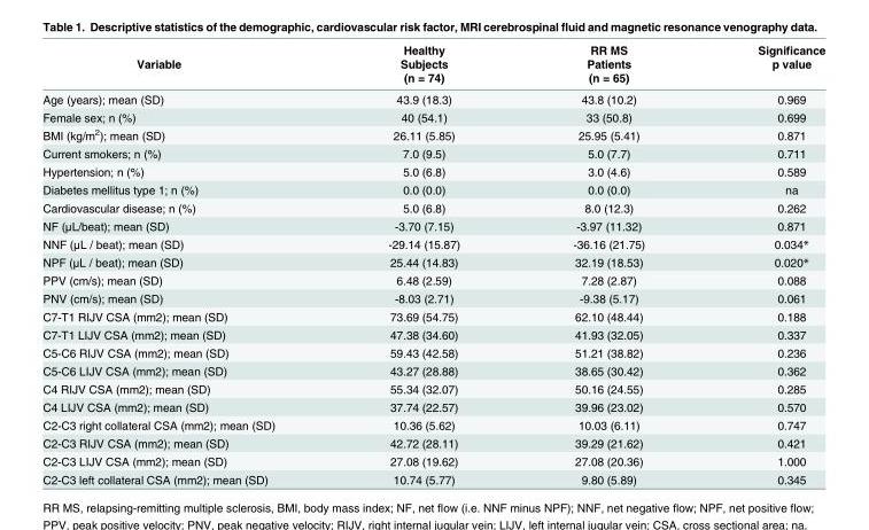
<table><thead><tr><td rowspan="3">Variable</td><td rowspan="3">Healthy Subjects (n = 74)</td><td rowspan="3">RR MS Patients (n = 65)</td><td rowspan="3">Significance p value</td></tr><tr></tr><tr></tr></thead><tbody><tr><td>Age (years); mean (SD)</td><td>43.9 (18.3)</td><td>43.8 (10.2)</td><td>0.969</td></tr><tr><td>Female sex; n (%)</td><td>40 (54.1)</td><td>33 (50.8)</td><td>0.699</td></tr><tr><td>BMI (kg/m<sup>2</sup>); mean (SD)</td><td>26.11 (5.85)</td><td>25.95 (5.41)</td><td>0.871</td></tr><tr><td>Current smokers; n (%)</td><td>7.0 (9.5)</td><td>5.0 (7.7)</td><td>0.711</td></tr><tr><td>Hypertension; n (%)</td><td>5.0 (6.8)</td><td>3.0 (4.6)</td><td>0.589</td></tr><tr><td>Diabetes mellitus type 1; n (%)</td><td>0.0 (0.0)</td><td>0.0 (0.0)</td><td>na</td></tr><tr><td>Cardiovascular disease; n (%)</td><td>5.0 (6.8)</td><td>8.0 (12.3)</td><td>0.262</td></tr><tr><td>NF (μL/beat); mean (SD)</td><td>-3.70 (7.15)</td><td>-3.97 (11.32)</td><td>0.871</td></tr><tr><td>NNF (μL / beat); mean (SD)</td><td>-29.14 (15.87)</td><td>-36.16 (21.75)</td><td>0.034*</td></tr><tr><td>NPF (μL / beat); mean (SD)</td><td>25.44 (14.83)</td><td>32.19 (18.53)</td><td>0.020*</td></tr><tr><td>PPV (cm/s); mean (SD)</td><td>6.48 (2.59)</td><td>7.28 (2.87)</td><td>0.088</td></tr><tr><td>PNV (cm/s); mean (SD)</td><td>-8.03 (2.71)</td><td>-9.38 (5.17)</td><td>0.061</td></tr><tr><td>C7-T1 RIJV CSA (mm2); mean (SD)</td><td>73.69 (54.75)</td><td>62.10 (48.44)</td><td>0.188</td></tr><tr><td>C7-T1 LIJV CSA (mm2); mean (SD)</td><td>47.38 (34.60)</td><td>41.93 (32.05)</td><td>0.337</td></tr><tr><td>C5-C6 RIJV CSA (mm2); mean (SD)</td><td>59.43 (42.58)</td><td>51.21 (38.82)</td><td>0.236</td></tr><tr><td>C5-C6 LIJV CSA (mm2); mean (SD)</td><td>43.27 (28.88)</td><td>38.65 (30.42)</td><td>0.362</td></tr><tr><td>C4 RIJV CSA (mm2); mean (SD)</td><td>55.34 (32.07)</td><td>50.16 (24.55)</td><td>0.285</td></tr><tr><td>C4 LIJV CSA (mm2); mean (SD)</td><td>37.74 (22.57)</td><td>39.96 (23.02)</td><td>0.570</td></tr><tr><td>C2-C3 right collateral CSA (mm2); mean (SD)</td><td>10.36 (5.62)</td><td>10.03 (6.11)</td><td>0.747</td></tr><tr><td>C2-C3 RIJV CSA (mm2); mean (SD)</td><td>42.72 (28.11)</td><td>39.29 (21.62)</td><td>0.421</td></tr><tr><td>C2-C3 LIJV CSA (mm2); mean (SD)</td><td>27.08 (19.62)</td><td>27.08 (20.36)</td><td>1.000</td></tr><tr><td>C2-C3 left collateral CSA (mm2); mean (SD)</td><td>10.74 (5.77)</td><td>9.80 (5.89)</td><td>0.345</td></tr></tbody></table>